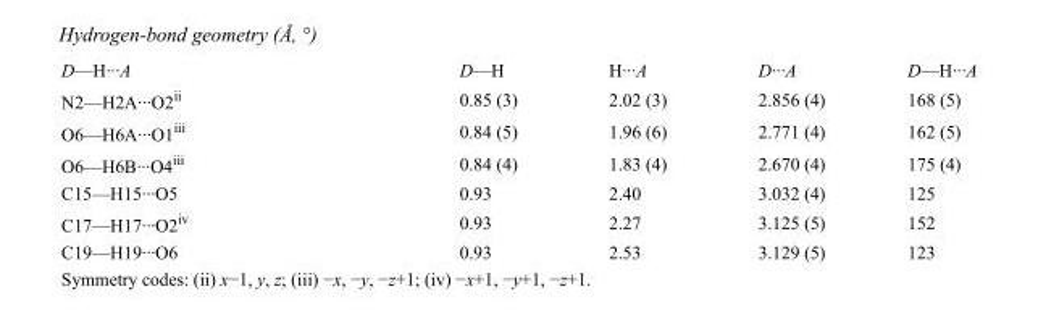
<table><tbody><tr><td>D—H···A</td><td>D—H</td><td>H···A</td><td>D···A</td><td>D—H···A</td></tr><tr><td>N2—H2A···O2<sup>ii</sup></td><td>0.85 (3)</td><td>2.02 (3)</td><td>2.856 (4)</td><td>168 (5)</td></tr><tr><td>O6—H6A···O1<sup>iii</sup></td><td>0.84 (5)</td><td>1.96 (6)</td><td>2.771 (4)</td><td>162 (5)</td></tr><tr><td>O6—H6B···O4<sup>iii</sup></td><td>0.84 (4)</td><td>1.83 (4)</td><td>2.670 (4)</td><td>175 (4)</td></tr><tr><td>C15—H15···O5</td><td>0.93</td><td>2.40</td><td>3.032 (4)</td><td>125</td></tr><tr><td>C17—H17···O2<sup>iv</sup></td><td>0.93</td><td>2.27</td><td>3.125 (5)</td><td>152</td></tr><tr><td>C19—H19···O6</td><td>0.93</td><td>2.53</td><td>3.129 (5)</td><td>123</td></tr></tbody></table>